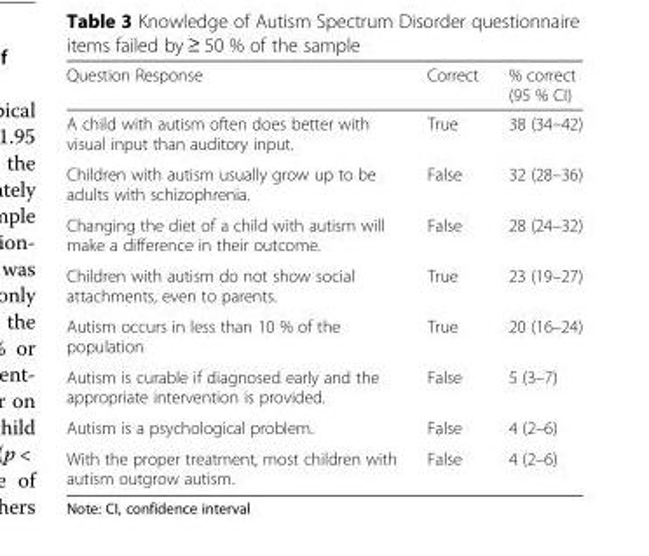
<table><thead><tr><td>Question Response</td><td>Correct</td><td>% correct (95 % CI)</td></tr></thead><tbody><tr><td>A child with autism often does better with visual input than auditory input.</td><td>True</td><td>38 (34–42)</td></tr><tr><td>Children with autism usually grow up to be adults with schizophrenia.</td><td>False</td><td>32 (28–36)</td></tr><tr><td>Changing the diet of a child with autism will make a difference in their outcome.</td><td>False</td><td>28 (24–32)</td></tr><tr><td>Children with autism do not show social attachments, even to parents.</td><td>True</td><td>23 (19–27)</td></tr><tr><td>Autism occurs in less than 10 % of the population</td><td>True</td><td>20 (16–24)</td></tr><tr><td>Autism is curable if diagnosed early and the appropriate intervention is provided.</td><td>False</td><td>5 (3–7)</td></tr><tr><td>Autism is a psychological problem.</td><td>False</td><td>4 (2–6)</td></tr><tr><td>With the proper treatment, most children with autism outgrow autism.</td><td>False</td><td>4 (2–6)</td></tr></tbody></table>